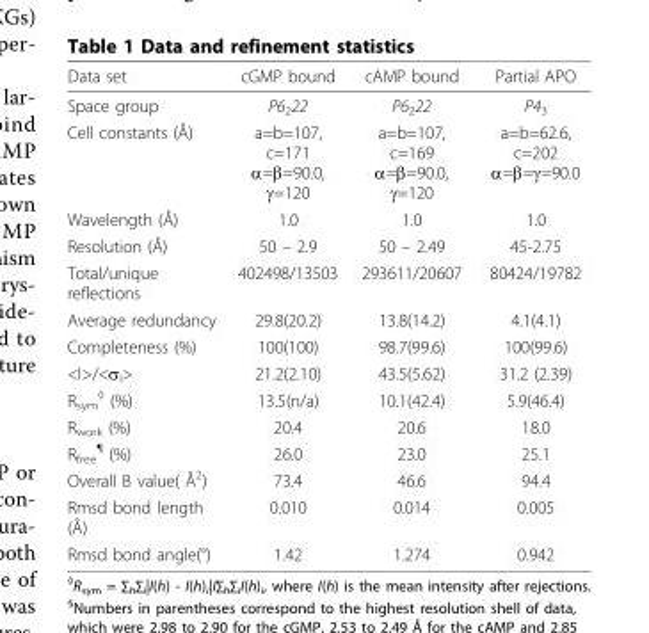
<table><thead><tr><td>Data set</td><td>cGMP bound</td><td>cAMP bound</td><td>Partial APO</td></tr></thead><tbody><tr><td>Space group</td><td>P6<sub>2</sub>22</td><td>P6<sub>2</sub>22</td><td>P4<sub>3</sub></td></tr><tr><td>Cell constants (Å)</td><td>a=b=107, c=171 α=β=90.0, γ=120</td><td>a=b=107, c=169 α=β=90.0, γ=120</td><td>a=b=62.6, c=202 α=β=γ=90.0</td></tr><tr><td>Wavelength (Å)</td><td>1.0</td><td>1.0</td><td>1.0</td></tr><tr><td>Resolution (Å)</td><td>50 – 2.9</td><td>50 – 2.49</td><td>45-2.75</td></tr><tr><td>Total/unique reflections</td><td>402498/13503</td><td>293611/20607</td><td>80424/19782</td></tr><tr><td>Average redundancy</td><td>29.8(20.2)</td><td>13.8(14.2)</td><td>4.1(4.1)</td></tr><tr><td>Completeness (%)</td><td>100(100)</td><td>98.7(99.6)</td><td>100(99.6)</td></tr><tr><td>&lt;I&gt;/&lt;σ<sub>I</sub>&gt;</td><td>21.2(2.10)</td><td>43.5(5.62)</td><td>31.2 (2.39)</td></tr><tr><td>R<sub>sym</sub> <sup>◊</sup> (%)</td><td>13.5(n/a)</td><td>10.1(42.4)</td><td>5.9(46.4)</td></tr><tr><td>R<sub>work</sub> (%)</td><td>20.4</td><td>20.6</td><td>18.0</td></tr><tr><td>R<sub>free</sub> <sup>¶</sup> (%)</td><td>26.0</td><td>23.0</td><td>25.1</td></tr><tr><td>Overall B value( Å<sup>2</sup>)</td><td>73.4</td><td>46.6</td><td>94.4</td></tr><tr><td>Rmsd bond length (Å)</td><td>0.010</td><td>0.014</td><td>0.005</td></tr><tr><td>Rmsd bond angle(°)</td><td>1.42</td><td>1.274</td><td>0.942</td></tr></tbody></table>